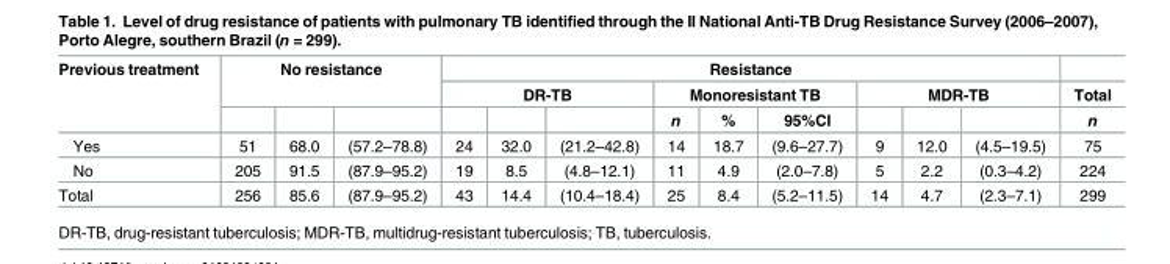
<table><thead><tr><td rowspan="3">Previous treatment</td><td rowspan="2" colspan="3">No resistance</td><td colspan="9">Resistance</td><td rowspan="3">Total n</td></tr><tr><td colspan="3">DR-TB</td><td colspan="3">Monoresistant TB</td><td colspan="3">MDR-TB</td></tr><tr><td></td><td></td><td></td><td></td><td></td><td></td><td>n</td><td>%</td><td>95%CI</td><td></td><td></td><td></td></tr></thead><tbody><tr><td>Yes</td><td>51</td><td>68.0</td><td>(57.2–78.8)</td><td>24</td><td>32.0</td><td>(21.2–42.8)</td><td>14</td><td>18.7</td><td>(9.6–27.7)</td><td>9</td><td>12.0</td><td>(4.5–19.5)</td><td>75</td></tr><tr><td>No</td><td>205</td><td>91.5</td><td>(87.9–95.2)</td><td>19</td><td>8.5</td><td>(4.8–12.1)</td><td>11</td><td>4.9</td><td>(2.0–7.8)</td><td>5</td><td>2.2</td><td>(0.3–4.2)</td><td>224</td></tr><tr><td>Total</td><td>256</td><td>85.6</td><td>(87.9–95.2)</td><td>43</td><td>14.4</td><td>(10.4–18.4)</td><td>25</td><td>8.4</td><td>(5.2–11.5)</td><td>14</td><td>4.7</td><td>(2.3–7.1)</td><td>299</td></tr></tbody></table>